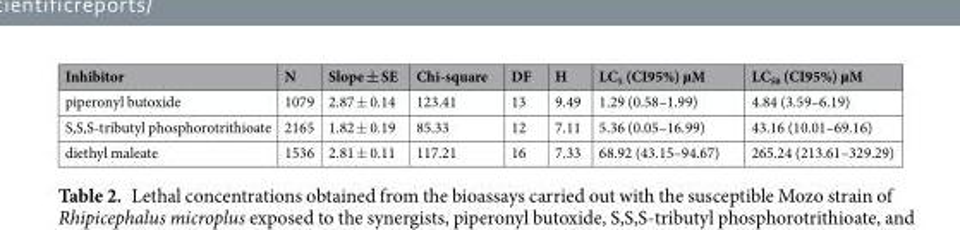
<table><thead><tr><td>Inhibitor</td><td>N</td><td>Slope ± SE</td><td>Chi-square</td><td>DF</td><td>H</td><td>LC<sub>5</sub> (CI95%) µM</td><td>LC<sub>50</sub> (CI95%) µM</td></tr></thead><tbody><tr><td>piperonyl butoxide</td><td>1079</td><td>2.87 ± 0.14</td><td>123.41</td><td>13</td><td>9.49</td><td>1.29 (0.58–1.99)</td><td>4.84 (3.59–6.19)</td></tr><tr><td>S,S,S-tributyl phosphorotrithioate</td><td>2165</td><td>1.82 ± 0.19</td><td>85.33</td><td>12</td><td>7.11</td><td>5.36 (0.05–16.99)</td><td>43.16 (10.01–69.16)</td></tr><tr><td>diethyl maleate</td><td>1536</td><td>2.81 ± 0.11</td><td>117.21</td><td>16</td><td>7.33</td><td>68.92 (43.15–94.67)</td><td>265.24 (213.61–329.29)</td></tr></tbody></table>